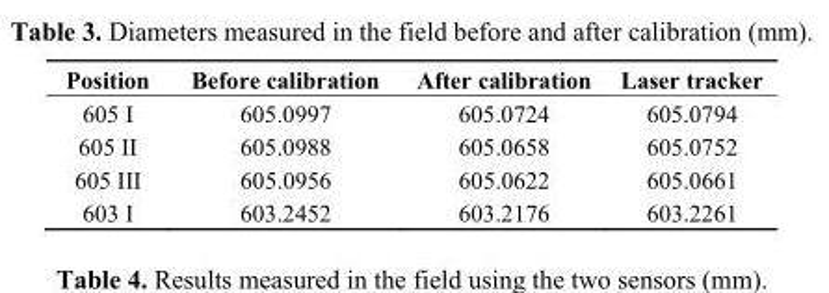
<table><thead><tr><td>Position</td><td>Before calibration</td><td>After calibration</td><td>Laser tracker</td></tr></thead><tbody><tr><td>605 I</td><td>605.0997</td><td>605.0724</td><td>605.0794</td></tr><tr><td>605 II</td><td>605.0988</td><td>605.0658</td><td>605.0752</td></tr><tr><td>605 III</td><td>605.0956</td><td>605.0622</td><td>605.0661</td></tr><tr><td>603 I</td><td>603.2452</td><td>603.2176</td><td>603.2261</td></tr></tbody></table>